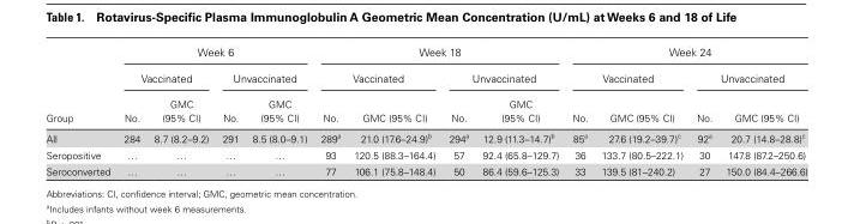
<table><thead><tr><td rowspan="3">Group</td><td colspan="4">Week 6</td><td colspan="4">Week 18</td><td colspan="4">Week 24</td></tr><tr><td colspan="2">Vaccinated</td><td colspan="2">Unvaccinated</td><td colspan="2">Vaccinated</td><td colspan="2">Unvaccinated</td><td colspan="2">Vaccinated</td><td colspan="2">Unvaccinated</td></tr><tr><td>No.</td><td>GMC (95% CI)</td><td>No.</td><td>GMC (95% CI)</td><td>No.</td><td>GMC (95% CI)</td><td>No.</td><td>GMC (95% CI)</td><td>No.</td><td>GMC (95% CI)</td><td>No.</td><td>GMC (95% CI)</td></tr></thead><tbody><tr><td>All</td><td>284</td><td>8.7 (8.2–9.2)</td><td>291</td><td>8.5 (8.0–9.1)</td><td>289<sup>a</sup></td><td>21.0 (17.6–24.9)<sup>b</sup></td><td>294<sup>a</sup></td><td>12.9 (11.3–14.7)<sup>b</sup></td><td>85<sup>a</sup></td><td>27.6 (19.2–39.7)<sup>c</sup></td><td>92<sup>a</sup></td><td>20.7 (14.8–28.8)<sup>c</sup></td></tr><tr><td>Seropositive</td><td>…</td><td>…</td><td>…</td><td>…</td><td>93</td><td>120.5 (88.3–164.4)</td><td>57</td><td>92.4 (65.8–129.7)</td><td>36</td><td>133.7 (80.5–222.1)</td><td>30</td><td>147.8 (87.2–250.6)</td></tr><tr><td>Seroconverted</td><td>…</td><td>…</td><td>…</td><td>…</td><td>77</td><td>106.1 (75.8–148.4)</td><td>50</td><td>86.4 (59.6–125.3)</td><td>33</td><td>139.5 (81–240.2)</td><td>27</td><td>150.0 (84.4–266.6)</td></tr></tbody></table>